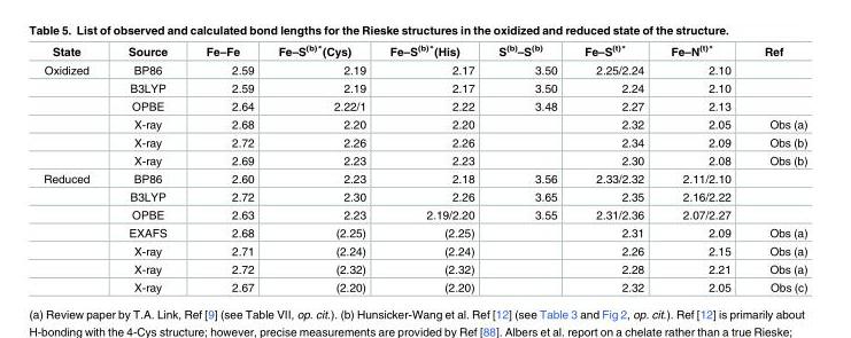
<table><thead><tr><td>State</td><td>Source</td><td>Fe–Fe</td><td>Fe–S<sup>(b)*</sup>(Cys)</td><td>Fe–S<sup>(b)*</sup>(His)</td><td>S<sup>(b)</sup>–S<sup>(b)</sup></td><td>Fe–S<sup>(t)*</sup></td><td>Fe–N<sup>(t)*</sup></td><td>Ref</td></tr></thead><tbody><tr><td rowspan="6">Oxidized</td><td>BP86</td><td>2.59</td><td>2.19</td><td>2.17</td><td>3.50</td><td>2.25/2.24</td><td>2.10</td><td></td></tr><tr><td>B3LYP</td><td>2.59</td><td>2.19</td><td>2.17</td><td>3.50</td><td>2.24</td><td>2.10</td><td></td></tr><tr><td>OPBE</td><td>2.64</td><td>2.22/1</td><td>2.22</td><td>3.48</td><td>2.27</td><td>2.13</td><td></td></tr><tr><td>X-ray</td><td>2.68</td><td>2.20</td><td>2.20</td><td></td><td>2.32</td><td>2.05</td><td>Obs (a)</td></tr><tr><td>X-ray</td><td>2.72</td><td>2.26</td><td>2.26</td><td></td><td>2.34</td><td>2.09</td><td>Obs (b)</td></tr><tr><td>X-ray</td><td>2.69</td><td>2.23</td><td>2.23</td><td></td><td>2.30</td><td>2.08</td><td>Obs (b)</td></tr><tr><td rowspan="7">Reduced</td><td>BP86</td><td>2.60</td><td>2.23</td><td>2.18</td><td>3.56</td><td>2.33/2.32</td><td>2.11/2.10</td><td></td></tr><tr><td>B3LYP</td><td>2.72</td><td>2.30</td><td>2.26</td><td>3.65</td><td>2.35</td><td>2.16/2.22</td><td></td></tr><tr><td>OPBE</td><td>2.63</td><td>2.23</td><td>2.19/2.20</td><td>3.55</td><td>2.31/2.36</td><td>2.07/2.27</td><td></td></tr><tr><td>EXAFS</td><td>2.68</td><td>(2.25)</td><td>(2.25)</td><td></td><td>2.31</td><td>2.09</td><td>Obs (a)</td></tr><tr><td>X-ray</td><td>2.71</td><td>(2.24)</td><td>(2.24)</td><td></td><td>2.26</td><td>2.15</td><td>Obs (a)</td></tr><tr><td>X-ray</td><td>2.72</td><td>(2.32)</td><td>(2.32)</td><td></td><td>2.28</td><td>2.21</td><td>Obs (a)</td></tr><tr><td>X-ray</td><td>2.67</td><td>(2.20)</td><td>(2.20)</td><td></td><td>2.32</td><td>2.05</td><td>Obs (c)</td></tr></tbody></table>